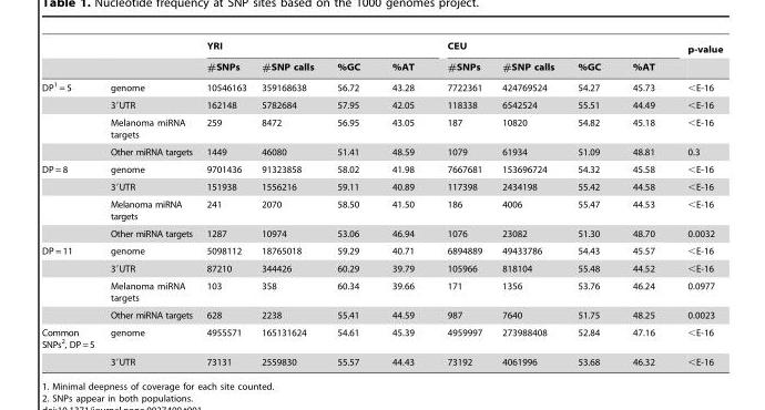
<table><thead><tr><td rowspan="2"></td><td rowspan="2"></td><td colspan="4">YRI</td><td colspan="4">CEU</td><td rowspan="2">p-value</td></tr><tr><td>#SNPs</td><td>#SNP calls</td><td>%GC</td><td>%AT</td><td>#SNPs</td><td>#SNP calls</td><td>%GC</td><td>%AT</td></tr></thead><tbody><tr><td rowspan="4">DP<sup>1</sup> = 5</td><td>genome</td><td>10546163</td><td>359168638</td><td>56.72</td><td>43.28</td><td>7722361</td><td>424769524</td><td>54.27</td><td>45.73</td><td>&lt;E-16</td></tr><tr><td>3′UTR</td><td>162148</td><td>5782684</td><td>57.95</td><td>42.05</td><td>118338</td><td>6542524</td><td>55.51</td><td>44.49</td><td>&lt;E-16</td></tr><tr><td>Melanoma miRNA targets</td><td>259</td><td>8472</td><td>56.95</td><td>43.05</td><td>187</td><td>10820</td><td>54.82</td><td>45.18</td><td>&lt;E-16</td></tr><tr><td>Other miRNA targets</td><td>1449</td><td>46080</td><td>51.41</td><td>48.59</td><td>1079</td><td>61934</td><td>51.09</td><td>48.81</td><td>0.3</td></tr><tr><td rowspan="4">DP = 8</td><td>genome</td><td>9701436</td><td>91323858</td><td>58.02</td><td>41.98</td><td>7667681</td><td>153696724</td><td>54.32</td><td>45.58</td><td>&lt;E-16</td></tr><tr><td>3′UTR</td><td>151938</td><td>1556216</td><td>59.11</td><td>40.89</td><td>117398</td><td>2434198</td><td>55.42</td><td>44.58</td><td>&lt;E-16</td></tr><tr><td>Melanoma miRNA targets</td><td>241</td><td>2070</td><td>58.50</td><td>41.50</td><td>186</td><td>4006</td><td>55.47</td><td>44.53</td><td>&lt;E-16</td></tr><tr><td>Other miRNA targets</td><td>1287</td><td>10974</td><td>53.06</td><td>46.94</td><td>1076</td><td>23082</td><td>51.30</td><td>48.70</td><td>0.0032</td></tr><tr><td rowspan="4">DP = 11</td><td>genome</td><td>5098112</td><td>18765018</td><td>59.29</td><td>40.71</td><td>6894889</td><td>49433786</td><td>54.43</td><td>45.57</td><td>&lt;E-16</td></tr><tr><td>3′UTR</td><td>87210</td><td>344426</td><td>60.29</td><td>39.79</td><td>105966</td><td>818104</td><td>55.48</td><td>44.52</td><td>&lt;E-16</td></tr><tr><td>Melanoma miRNA targets</td><td>103</td><td>358</td><td>60.34</td><td>39.66</td><td>171</td><td>1356</td><td>53.76</td><td>46.24</td><td>0.0977</td></tr><tr><td>Other miRNA targets</td><td>628</td><td>2238</td><td>55.41</td><td>44.59</td><td>987</td><td>7640</td><td>51.75</td><td>48.25</td><td>0.0023</td></tr><tr><td rowspan="2">Common SNPs<sup>2</sup>, DP=5</td><td>genome</td><td>4955571</td><td>165131624</td><td>54.61</td><td>45.39</td><td>4959997</td><td>273988408</td><td>52.84</td><td>47.16</td><td>&lt;E-16</td></tr><tr><td>3′UTR</td><td>73131</td><td>2559830</td><td>55.57</td><td>44.43</td><td>73192</td><td>4061996</td><td>53.68</td><td>46.32</td><td>&lt;E-16</td></tr></tbody></table>